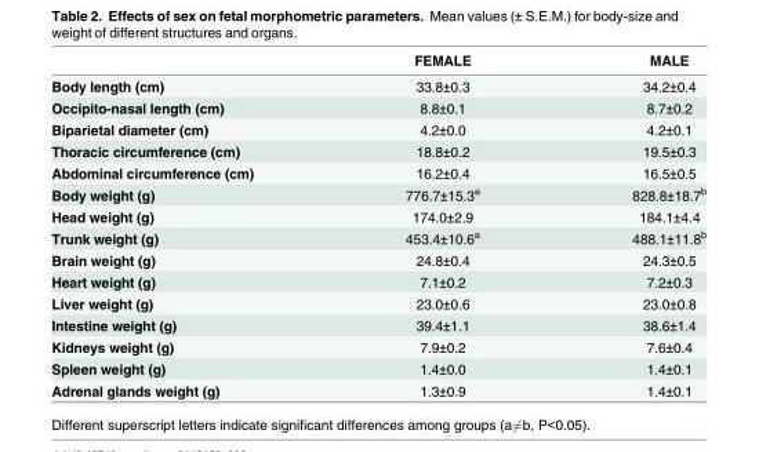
<table><thead><tr><td></td><td>FEMALE</td><td>MALE</td></tr></thead><tbody><tr><td>Body length (cm)</td><td>33.8±0.3</td><td>34.2±0.4</td></tr><tr><td>Occipito-nasal length (cm)</td><td>8.8±0.1</td><td>8.7±0.2</td></tr><tr><td>Biparietal diameter (cm)</td><td>4.2±0.0</td><td>4.2±0.1</td></tr><tr><td>Thoracic circumference (cm)</td><td>18.8±0.2</td><td>19.5±0.3</td></tr><tr><td>Abdominal circumference (cm)</td><td>16.2±0.4</td><td>16.5±0.5</td></tr><tr><td>Body weight (g)</td><td>776.7±15.3<sup>a</sup></td><td>828.8±18.7<sup>b</sup></td></tr><tr><td>Head weight (g)</td><td>174.0±2.9</td><td>184.1±4.4</td></tr><tr><td>Trunk weight (g)</td><td>453.4±10.6<sup>a</sup></td><td>488.1±11.8<sup>b</sup></td></tr><tr><td>Brain weight (g)</td><td>24.8±0.4</td><td>24.3±0.5</td></tr><tr><td>Heart weight (g)</td><td>7.1±0.2</td><td>7.2±0.3</td></tr><tr><td>Liver weight (g)</td><td>23.0±0.6</td><td>23.0±0.8</td></tr><tr><td>Intestine weight (g)</td><td>39.4±1.1</td><td>38.6±1.4</td></tr><tr><td>Kidneys weight (g)</td><td>7.9±0.2</td><td>7.6±0.4</td></tr><tr><td>Spleen weight (g)</td><td>1.4±0.0</td><td>1.4±0.1</td></tr><tr><td>Adrenal glands weight (g)</td><td>1.3±0.9</td><td>1.4±0.1</td></tr></tbody></table>